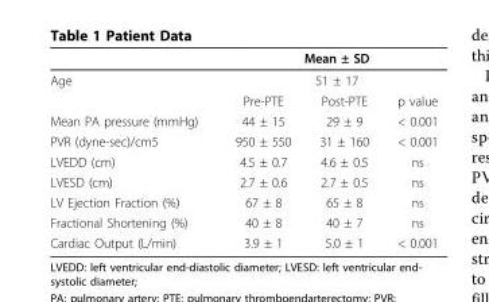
<table><thead><tr><td rowspan="3">Age</td><td rowspan="2" colspan="3">Mean ± SD 51 ± 17</td></tr><tr></tr><tr><td>Pre-PTE</td><td>Post-PTE</td><td>p value</td></tr></thead><tbody><tr><td>Mean PA pressure (mmHg)</td><td>44 ± 15</td><td>29 ± 9</td><td>&lt; 0.001</td></tr><tr><td>PVR (dyne-sec)/cm5</td><td>950 ± 550</td><td>31 ± 160</td><td>&lt; 0.001</td></tr><tr><td>LVEDD (cm)</td><td>4.5 ± 0.7</td><td>4.6 ± 0.5</td><td>ns</td></tr><tr><td>LVESD (cm)</td><td>2.7 ± 0.6</td><td>2.7 ± 0.5</td><td>ns</td></tr><tr><td>LV Ejection Fraction (%)</td><td>67 ± 8</td><td>65 ± 8</td><td>ns</td></tr><tr><td>Fractional Shortening (%)</td><td>40 ± 8</td><td>40 ± 7</td><td>ns</td></tr><tr><td>Cardiac Output (L/min)</td><td>3.9 ± 1</td><td>5.0 ± 1</td><td>&lt; 0.001</td></tr></tbody></table>